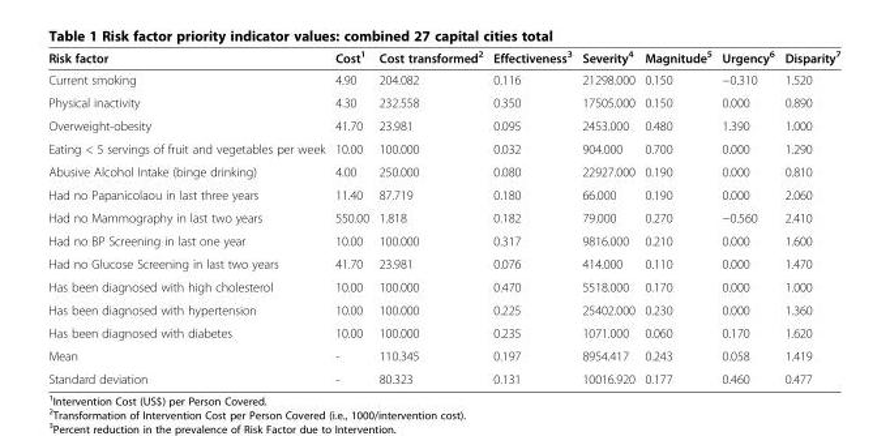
<table><thead><tr><td>Risk factor</td><td>Cost<sup>1</sup></td><td>Cost transformed<sup>2</sup></td><td>Effectiveness<sup>3</sup></td><td>Severity<sup>4</sup></td><td>Magnitude<sup>5</sup></td><td>Urgency<sup>6</sup></td><td>Disparity<sup>7</sup></td></tr></thead><tbody><tr><td>Current smoking</td><td>4.90</td><td>204.082</td><td>0.116</td><td>21298.000</td><td>0.150</td><td>−0.310</td><td>1.520</td></tr><tr><td>Physical inactivity</td><td>4.30</td><td>232.558</td><td>0.350</td><td>17505.000</td><td>0.150</td><td>0.000</td><td>0.890</td></tr><tr><td>Overweight-obesity</td><td>41.70</td><td>23.981</td><td>0.095</td><td>2453.000</td><td>0.480</td><td>1.390</td><td>1.000</td></tr><tr><td>Eating &lt; 5 servings of fruit and vegetables per week</td><td>10.00</td><td>100.000</td><td>0.032</td><td>904.000</td><td>0.700</td><td>0.000</td><td>1.290</td></tr><tr><td>Abusive Alcohol Intake (binge drinking)</td><td>4.00</td><td>250.000</td><td>0.080</td><td>22927.000</td><td>0.190</td><td>0.000</td><td>0.810</td></tr><tr><td>Had no Papanicolaou in last three years</td><td>11.40</td><td>87.719</td><td>0.180</td><td>66.000</td><td>0.190</td><td>0.000</td><td>2.060</td></tr><tr><td>Had no Mammography in last two years</td><td>550.00</td><td>1.818</td><td>0.182</td><td>79.000</td><td>0.270</td><td>−0.560</td><td>2.410</td></tr><tr><td>Had no BP Screening in last one year</td><td>10.00</td><td>100.000</td><td>0.317</td><td>9816.000</td><td>0.210</td><td>0.000</td><td>1.600</td></tr><tr><td>Had no Glucose Screening in last two years</td><td>41.70</td><td>23.981</td><td>0.076</td><td>414.000</td><td>0.110</td><td>0.000</td><td>1.470</td></tr><tr><td>Has been diagnosed with high cholesterol</td><td>10.00</td><td>100.000</td><td>0.470</td><td>5518.000</td><td>0.170</td><td>0.000</td><td>1.000</td></tr><tr><td>Has been diagnosed with hypertension</td><td>10.00</td><td>100.000</td><td>0.225</td><td>25402.000</td><td>0.230</td><td>0.000</td><td>1.360</td></tr><tr><td>Has been diagnosed with diabetes</td><td>10.00</td><td>100.000</td><td>0.235</td><td>1071.000</td><td>0.060</td><td>0.170</td><td>1.620</td></tr><tr><td>Mean</td><td>-</td><td>110.345</td><td>0.197</td><td>8954.417</td><td>0.243</td><td>0.058</td><td>1.419</td></tr><tr><td>Standard deviation</td><td>-</td><td>80.323</td><td>0.131</td><td>10016.920</td><td>0.177</td><td>0.460</td><td>0.477</td></tr></tbody></table>